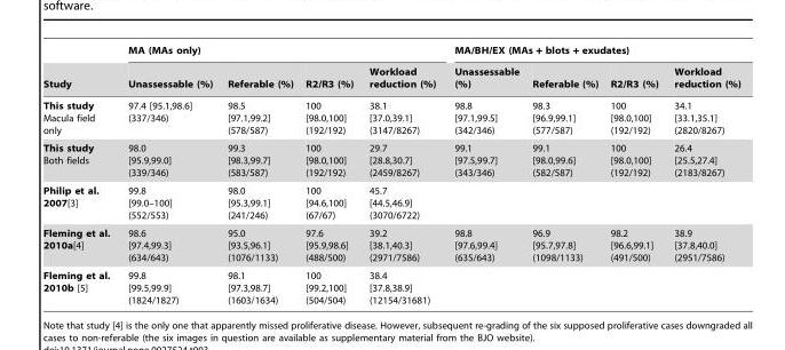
<table><thead><tr><td rowspan="2">Study</td><td colspan="4">MA (MAs only)</td><td colspan="4">MA/BH/EX (MAs + blots + exudates)</td></tr><tr><td>Unassessable (%)</td><td>Referable (%)</td><td>R2/R3 (%)</td><td>Workload reduction (%)</td><td>Unassessable (%)</td><td>Referable (%)</td><td>R2/R3 (%)</td><td>Workload reduction (%)</td></tr></thead><tbody><tr><td>This study Macula field only</td><td>97.4 [95.1,98.6] (337/346)</td><td>98.5 [97.1,99.2] (578/587)</td><td>100 [98.0,100] (192/192)</td><td>38.1 [37.0,39.1] (3147/8267)</td><td>98.8 [97.1,99.5] (342/346)</td><td>98.3 [96.9,99.1] (577/587)</td><td>100 [98.0,100] (192/192)</td><td>34.1 [33.1,35.1] (2820/8267)</td></tr><tr><td>This study Both fields</td><td>98.0 [95.9,99.0] (339/346)</td><td>99.3 [98.3,99.7] (583/587)</td><td>100 [98.0,100] (192/192)</td><td>29.7 [28.8,30.7] (2459/8267)</td><td>99.1 [97.5,99.7] (343/346)</td><td>99.1 [98.0,99.6] (582/587)</td><td>100 [98.0,100] (192/192)</td><td>26.4 [25.5,27.4] (2183/8267)</td></tr><tr><td>Philip et al. 2007[3]</td><td>99.8 [99.0–100] (552/553)</td><td>98.0 [95.3,99.1] (241/246)</td><td>100 [94.6,100] (67/67)</td><td>45.7 [44.5,46.9] (3070/6722)</td><td colspan="4"></td></tr><tr><td>Fleming et al. 2010a[4]</td><td>98.6 [97.4,99.3] (634/643)</td><td>95.0 [93.5,96.1] (1076/1133)</td><td>97.6 [95.9,98.6] (488/500)</td><td>39.2 [38.1,40.3] (2971/7586)</td><td>98.8 [97.6,99.4] (635/643)</td><td>96.9 [95.7,97.8] (1098/1133)</td><td>98.2 [96.6,99.1] (491/500)</td><td>38.9 [37.8,40.0] (2951/7586)</td></tr><tr><td>Fleming et al. 2010b [5]</td><td>99.8 [99.5,99.9] (1824/1827)</td><td>98.1 [97.3,98.7] (1603/1634)</td><td>100 [99.2,100] (504/504)</td><td>38.4 [37.8,38.9] (12154/31681)</td><td colspan="4"></td></tr></tbody></table>